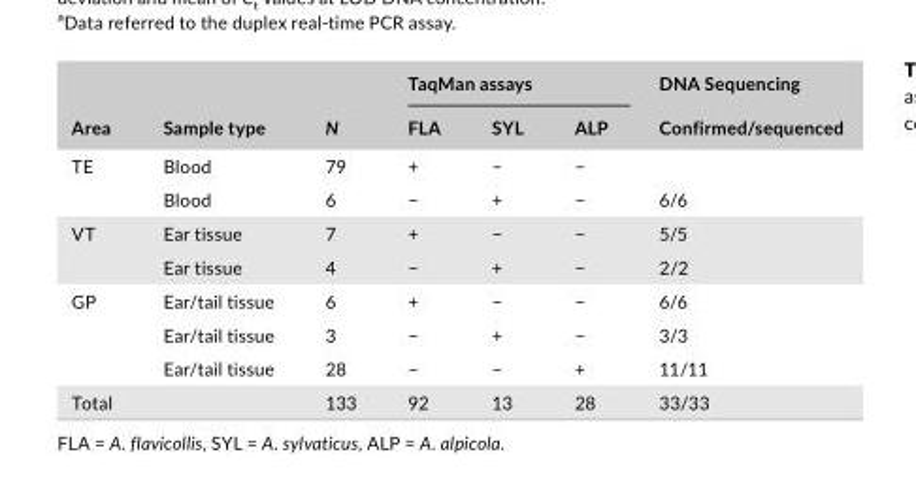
<table><thead><tr><td rowspan="2">Area</td><td rowspan="2">Sample type</td><td rowspan="2">N</td><td colspan="3">TaqMan assays</td><td rowspan="2">DNA Sequencing Confirmed/sequenced</td></tr><tr><td>FLA</td><td>SYL</td><td>ALP</td></tr></thead><tbody><tr><td rowspan="2">TE</td><td>Blood</td><td>79</td><td>+</td><td>−</td><td>−</td><td></td></tr><tr><td>Blood</td><td>6</td><td>−</td><td>+</td><td>−</td><td>6/6</td></tr><tr><td rowspan="2">VT</td><td>Ear tissue</td><td>7</td><td>+</td><td>−</td><td>−</td><td>5/5</td></tr><tr><td>Ear tissue</td><td>4</td><td>−</td><td>+</td><td>−</td><td>2/2</td></tr><tr><td rowspan="3">GP</td><td>Ear/tail tissue</td><td>6</td><td>+</td><td>−</td><td>−</td><td>6/6</td></tr><tr><td>Ear/tail tissue</td><td>3</td><td>−</td><td>+</td><td>−</td><td>3/3</td></tr><tr><td>Ear/tail tissue</td><td>28</td><td>−</td><td>−</td><td>+</td><td>11/11</td></tr><tr><td>Total</td><td></td><td>133</td><td>92</td><td>13</td><td>28</td><td>33/33</td></tr></tbody></table>